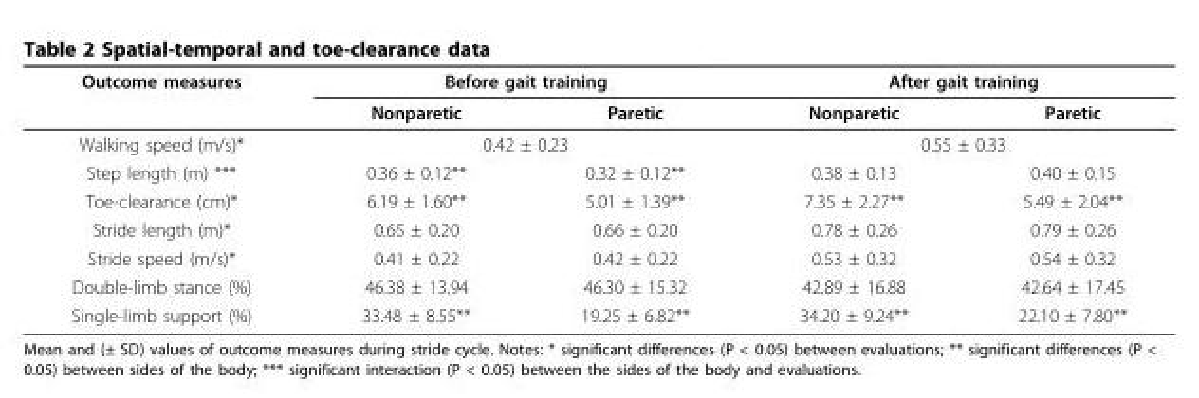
<table><thead><tr><td rowspan="2">Outcome measures</td><td colspan="2">Before gait training</td><td colspan="2">After gait training</td></tr><tr><td>Nonparetic</td><td>Paretic</td><td>Nonparetic</td><td>Paretic</td></tr></thead><tbody><tr><td>Walking speed (m/s)*</td><td colspan="2">0.42 ± 0.23</td><td colspan="2">0.55 ± 0.33</td></tr><tr><td>Step length (m) ***</td><td>0.36 ± 0.12**</td><td>0.32 ± 0.12**</td><td>0.38 ± 0.13</td><td>0.40 ± 0.15</td></tr><tr><td>Toe-clearance (cm)*</td><td>6.19 ± 1.60**</td><td>5.01 ± 1.39**</td><td>7.35 ± 2.27**</td><td>5.49 ± 2.04**</td></tr><tr><td>Stride length (m)*</td><td>0.65 ± 0.20</td><td>0.66 ± 0.20</td><td>0.78 ± 0.26</td><td>0.79 ± 0.26</td></tr><tr><td>Stride speed (m/s)*</td><td>0.41 ± 0.22</td><td>0.42 ± 0.22</td><td>0.53 ± 0.32</td><td>0.54 ± 0.32</td></tr><tr><td>Double-limb stance (%)</td><td>46.38 ± 13.94</td><td>46.30 ± 15.32</td><td>42.89 ± 16.88</td><td>42.64 ± 17.45</td></tr><tr><td>Single-limb support (%)</td><td>33.48 ± 8.55**</td><td>19.25 ± 6.82**</td><td>34.20 ± 9.24**</td><td>22.10 ± 7.80**</td></tr></tbody></table>